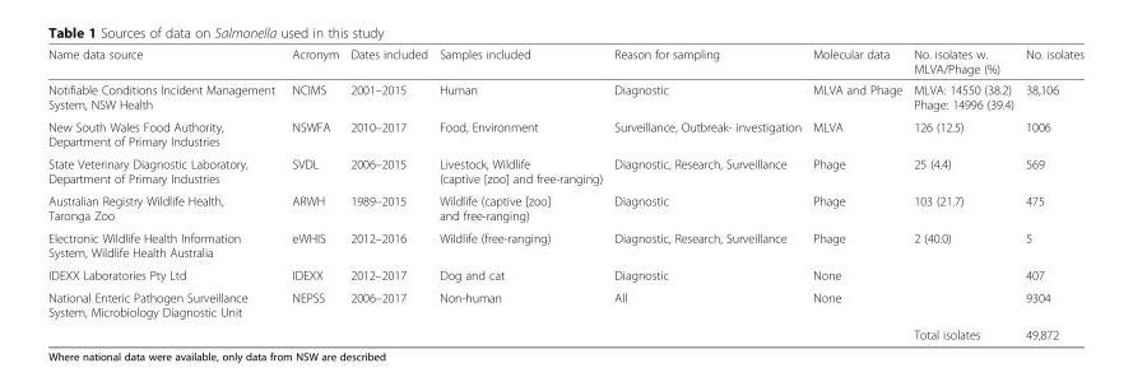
<table><thead><tr><td>Name data source</td><td>Acronym</td><td>Dates included</td><td>Samples included</td><td>Reason for sampling</td><td>Molecular data</td><td>No. isolates w. MLVA/Phage (%)</td><td>No. isolates</td></tr></thead><tbody><tr><td>Notifiable Conditions Incident Management System, NSW Health</td><td>NCIMS</td><td>2001–2015</td><td>Human</td><td>Diagnostic</td><td>MLVA and Phage</td><td>MLVA: 14550 (38.2) Phage: 14996 (39.4)</td><td>38,106</td></tr><tr><td>New South Wales Food Authority, Department of Primary Industries</td><td>NSWFA</td><td>2010–2017</td><td>Food, Environment</td><td>Surveillance, Outbreak- investigation</td><td>MLVA</td><td>126 (12.5)</td><td>1006</td></tr><tr><td>State Veterinary Diagnostic Laboratory, Department of Primary Industries</td><td>SVDL</td><td>2006–2015</td><td>Livestock, Wildlife (captive [zoo] and free-ranging)</td><td>Diagnostic, Research, Surveillance</td><td>Phage</td><td>25 (4.4)</td><td>569</td></tr><tr><td>Australian Registry Wildlife Health, Taronga Zoo</td><td>ARWH</td><td>1989–2015</td><td>Wildlife (captive [zoo] and free-ranging)</td><td>Diagnostic</td><td>Phage</td><td>103 (21.7)</td><td>475</td></tr><tr><td>Electronic Wildlife Health Information System, Wildlife Health Australia</td><td>eWHIS</td><td>2012–2016</td><td>Wildlife (free-ranging)</td><td>Diagnostic, Research, Surveillance</td><td>Phage</td><td>2 (40.0)</td><td>5</td></tr><tr><td>IDEXX Laboratories Pty Ltd</td><td>IDEXX</td><td>2012–2017</td><td>Dog and cat</td><td>Diagnostic</td><td>None</td><td></td><td>407</td></tr><tr><td rowspan="2">National Enteric Pathogen Surveillance System, Microbiology Diagnostic Unit</td><td>NEPSS</td><td>2006–2017</td><td>Non-human</td><td>All</td><td>None</td><td></td><td>9304</td></tr><tr><td></td><td></td><td></td><td></td><td></td><td>Total isolates</td><td>49,872</td></tr></tbody></table>